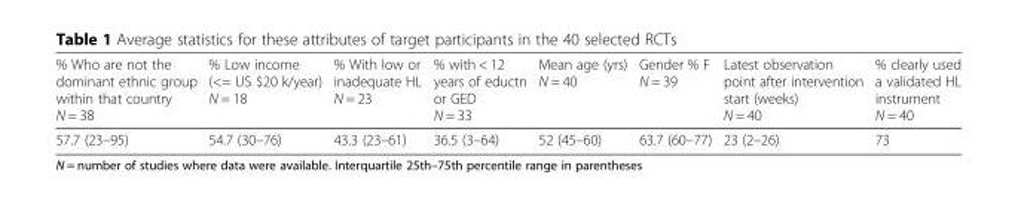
<table><thead><tr><td>% Who are not the dominant ethnic group within that country N = 38</td><td>% Low income (&lt;= US $20 k/year) N = 18</td><td>% With low or inadequate HL N = 23</td><td>% with &lt; 12 years of eductn or GED N = 33</td><td>Mean age (yrs) N = 40</td><td>Gender % F N = 39</td><td>Latest observation point after intervention start (weeks) N = 40</td><td>% clearly used a validated HL instrument N = 40</td></tr></thead><tbody><tr><td>57.7 (23–95)</td><td>54.7 (30–76)</td><td>43.3 (23–61)</td><td>36.5 (3–64)</td><td>52 (45–60)</td><td>63.7 (60–77)</td><td>23 (2–26)</td><td>73</td></tr></tbody></table>